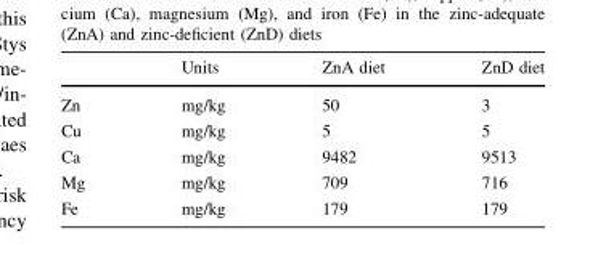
<table><thead><tr><td></td><td>Units</td><td>ZnA diet</td><td>ZnD diet</td></tr></thead><tbody><tr><td>Zn</td><td>mg/kg</td><td>50</td><td>3</td></tr><tr><td>Cu</td><td>mg/kg</td><td>5</td><td>5</td></tr><tr><td>Ca</td><td>mg/kg</td><td>9482</td><td>9513</td></tr><tr><td>Mg</td><td>mg/kg</td><td>709</td><td>716</td></tr><tr><td>Fe</td><td>mg/kg</td><td>179</td><td>179</td></tr></tbody></table>